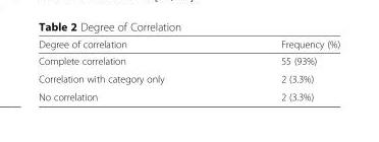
<table><thead><tr><td>Degree of correlation</td><td>Frequency (%)</td></tr></thead><tbody><tr><td>Complete correlation</td><td>55 (93%)</td></tr><tr><td>Correlation with category only</td><td>2 (3.3%)</td></tr><tr><td>No correlation</td><td>2 (3.3%)</td></tr></tbody></table>